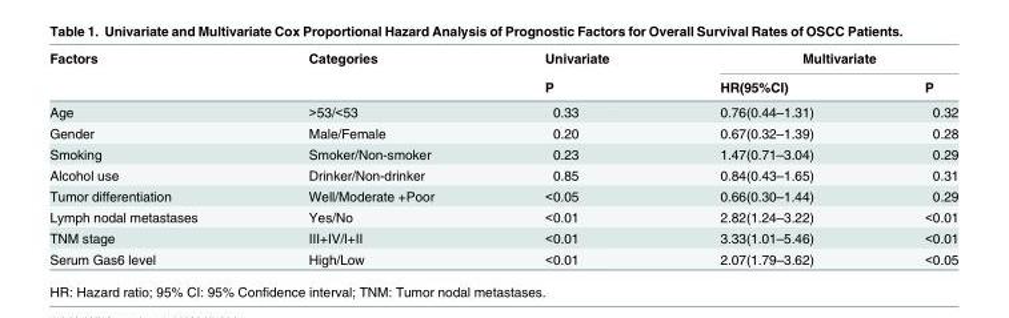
<table><thead><tr><td rowspan="2">Factors</td><td rowspan="2">Categories</td><td rowspan="2">Univariate P</td><td colspan="2">Multivariate</td></tr><tr><td>HR(95%CI)</td><td>P</td></tr></thead><tbody><tr><td>Age</td><td>&gt;53/&lt;53</td><td>0.33</td><td>0.76(0.44–1.31)</td><td>0.32</td></tr><tr><td>Gender</td><td>Male/Female</td><td>0.20</td><td>0.67(0.32–1.39)</td><td>0.28</td></tr><tr><td>Smoking</td><td>Smoker/Non-smoker</td><td>0.23</td><td>1.47(0.71–3.04)</td><td>0.29</td></tr><tr><td>Alcohol use</td><td>Drinker/Non-drinker</td><td>0.85</td><td>0.84(0.43–1.65)</td><td>0.31</td></tr><tr><td>Tumor differentiation</td><td>Well/Moderate +Poor</td><td>&lt;0.05</td><td>0.66(0.30–1.44)</td><td>0.29</td></tr><tr><td>Lymph nodal metastases</td><td>Yes/No</td><td>&lt;0.01</td><td>2.82(1.24–3.22)</td><td>&lt;0.01</td></tr><tr><td>TNM stage</td><td>III+IV/I+II</td><td>&lt;0.01</td><td>3.33(1.01–5.46)</td><td>&lt;0.01</td></tr><tr><td>Serum Gas6 level</td><td>High/Low</td><td>&lt;0.01</td><td>2.07(1.79–3.62)</td><td>&lt;0.05</td></tr></tbody></table>